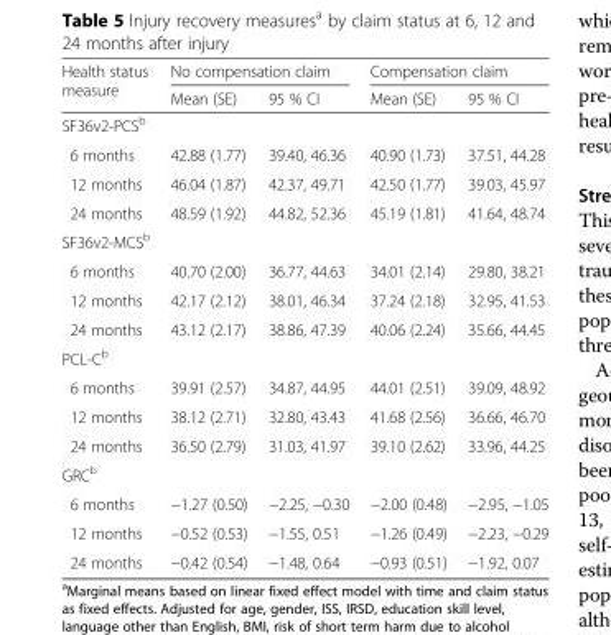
<table><thead><tr><td rowspan="2">Health status measure</td><td colspan="2">No compensation claim</td><td colspan="2">Compensation claim</td></tr><tr><td>Mean (SE)</td><td>95 % CI</td><td>Mean (SE)</td><td>95 % CI</td></tr></thead><tbody><tr><td colspan="5">SF36v2-PCS<sup>b</sup></td></tr><tr><td>6 months</td><td>42.88 (1.77)</td><td>39.40, 46.36</td><td>40.90 (1.73)</td><td>37.51, 44.28</td></tr><tr><td>12 months</td><td>46.04 (1.87)</td><td>42.37, 49.71</td><td>42.50 (1.77)</td><td>39.03, 45.97</td></tr><tr><td>24 months</td><td>48.59 (1.92)</td><td>44.82, 52.36</td><td>45.19 (1.81)</td><td>41.64, 48.74</td></tr><tr><td colspan="5">SF36v2-MCS<sup>b</sup></td></tr><tr><td>6 months</td><td>40.70 (2.00)</td><td>36.77, 44.63</td><td>34.01 (2.14)</td><td>29.80, 38.21</td></tr><tr><td>12 months</td><td>42.17 (2.12)</td><td>38.01, 46.34</td><td>37.24 (2.18)</td><td>32.95, 41.53</td></tr><tr><td>24 months</td><td>43.12 (2.17)</td><td>38.86, 47.39</td><td>40.06 (2.24)</td><td>35.66, 44.45</td></tr><tr><td colspan="5">PCL-C<sup>b</sup></td></tr><tr><td>6 months</td><td>39.91 (2.57)</td><td>34.87, 44.95</td><td>44.01 (2.51)</td><td>39.09, 48.92</td></tr><tr><td>12 months</td><td>38.12 (2.71)</td><td>32.80, 43.43</td><td>41.68 (2.56)</td><td>36.66, 46.70</td></tr><tr><td>24 months</td><td>36.50 (2.79)</td><td>31.03, 41.97</td><td>39.10 (2.62)</td><td>33.96, 44.25</td></tr><tr><td colspan="5">GRC<sup>b</sup></td></tr><tr><td>6 months</td><td>−1.27 (0.50)</td><td>−2.25, −0.30</td><td>−2.00 (0.48)</td><td>−2.95, −1.05</td></tr><tr><td>12 months</td><td>−0.52 (0.53)</td><td>−1.55, 0.51</td><td>−1.26 (0.49)</td><td>−2.23, −0.29</td></tr><tr><td>24 months</td><td>−0.42 (0.54)</td><td>−1.48, 0.64</td><td>−0.93 (0.51)</td><td>−1.92, 0.07</td></tr></tbody></table>